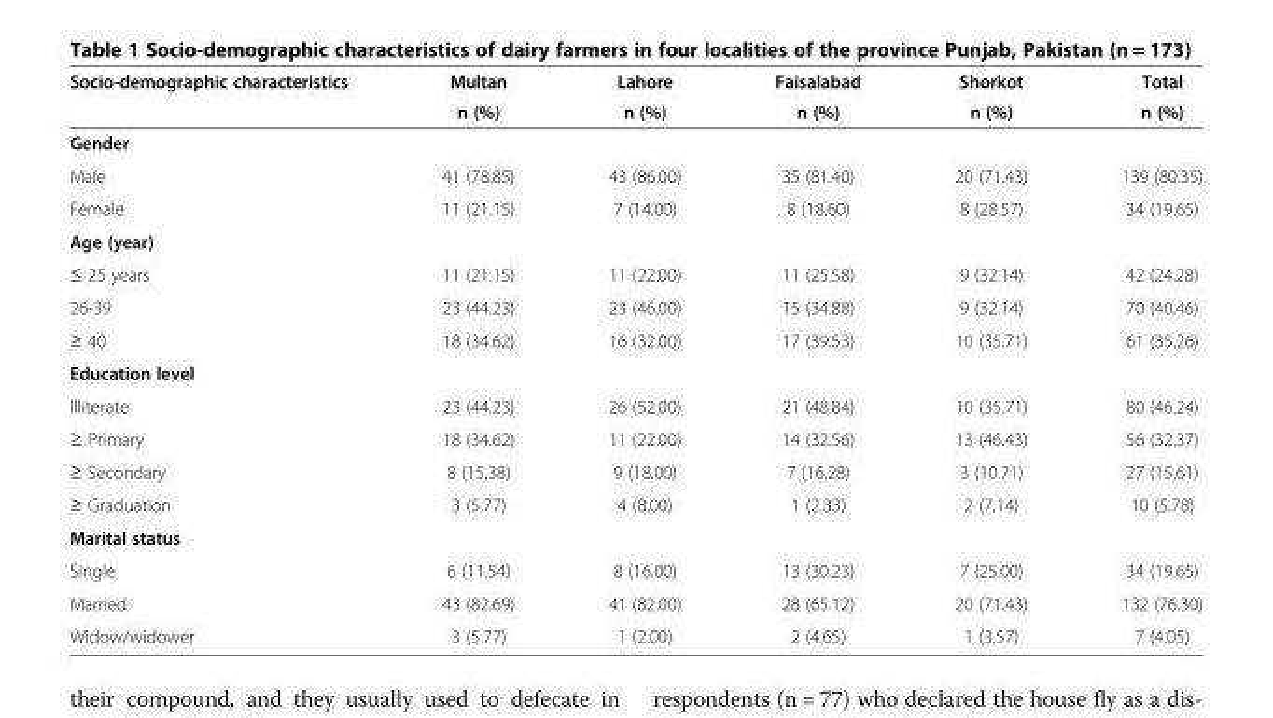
<table><thead><tr><td rowspan="2">Socio-demographic characteristics</td><td rowspan="2">Multan n (%)</td><td rowspan="2">Lahore n (%)</td><td rowspan="2">Faisalabad n (%)</td><td rowspan="2">Shorkot n (%)</td><td rowspan="2">Total n (%)</td></tr><tr></tr></thead><tbody><tr><td colspan="6">Gender</td></tr><tr><td>Male</td><td>41 (78.85)</td><td>43 (86.00)</td><td>35 (81.40)</td><td>20 (71.43)</td><td>139 (80.35)</td></tr><tr><td>Female</td><td>11 (21.15)</td><td>7 (14.00)</td><td>8 (18.60)</td><td>8 (28.57)</td><td>34 (19.65)</td></tr><tr><td colspan="6">Age (year)</td></tr><tr><td>≤ 25 years</td><td>11 (21.15)</td><td>11 (22.00)</td><td>11 (25.58)</td><td>9 (32.14)</td><td>42 (24.28)</td></tr><tr><td>26-39</td><td>23 (44.23)</td><td>23 (46.00)</td><td>15 (34.88)</td><td>9 (32.14)</td><td>70 (40.46)</td></tr><tr><td>≥ 40</td><td>18 (34.62)</td><td>16 (32.00)</td><td>17 (39.53)</td><td>10 (35.71)</td><td>61 (35.26)</td></tr><tr><td colspan="6">Education level</td></tr><tr><td>Illiterate</td><td>23 (44.23)</td><td>26 (52.00)</td><td>21 (48.84)</td><td>10 (35.71)</td><td>80 (46.24)</td></tr><tr><td>≥ Primary</td><td>18 (34.62)</td><td>11 (22.00)</td><td>14 (32.56)</td><td>13 (46.43)</td><td>56 (32.37)</td></tr><tr><td>≥ Secondary</td><td>8 (15.38)</td><td>9 (18.00)</td><td>7 (16.28)</td><td>3 (10.71)</td><td>27 (15.61)</td></tr><tr><td>≥ Graduation</td><td>3 (5.77)</td><td>4 (8.00)</td><td>1 (2.33)</td><td>2 (7.14)</td><td>10 (5.78)</td></tr><tr><td colspan="6">Marital status</td></tr><tr><td>Single</td><td>6 (11.54)</td><td>8 (16.00)</td><td>13 (30.23)</td><td>7 (25.00)</td><td>34 (19.65)</td></tr><tr><td>Married</td><td>43 (82.69)</td><td>41 (82.00)</td><td>28 (65.12)</td><td>20 (71.43)</td><td>132 (76.30)</td></tr><tr><td>Widow/widower</td><td>3 (5.77)</td><td>1 (2.00)</td><td>2 (4.65)</td><td>1 (3.57)</td><td>7 (4.05)</td></tr></tbody></table>